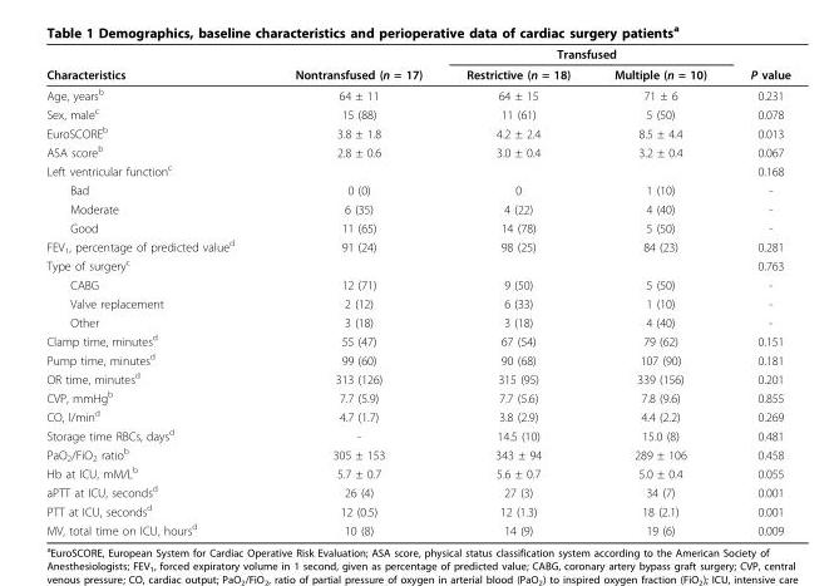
<table><thead><tr><td rowspan="2">Characteristics</td><td rowspan="2">Nontransfused (n = 17)</td><td colspan="2">Transfused</td><td rowspan="2">P value</td></tr><tr><td>Restrictive (n = 18)</td><td>Multiple (n = 10)</td></tr></thead><tbody><tr><td>Age, years<sup>b</sup></td><td>64 ± 11</td><td>64 ± 15</td><td>71 ± 6</td><td>0.231</td></tr><tr><td>Sex, male<sup>c</sup></td><td>15 (88)</td><td>11 (61)</td><td>5 (50)</td><td>0.078</td></tr><tr><td>EuroSCORE<sup>b</sup></td><td>3.8 ± 1.8</td><td>4.2 ± 2.4</td><td>8.5 ± 4.4</td><td>0.013</td></tr><tr><td>ASA score<sup>b</sup></td><td>2.8 ± 0.6</td><td>3.0 ± 0.4</td><td>3.2 ± 0.4</td><td>0.067</td></tr><tr><td>Left ventricular function<sup>c</sup></td><td></td><td></td><td></td><td>0.168</td></tr><tr><td>Bad</td><td>0 (0)</td><td>0</td><td>1 (10)</td><td>-</td></tr><tr><td>Moderate</td><td>6 (35)</td><td>4 (22)</td><td>4 (40)</td><td>-</td></tr><tr><td>Good</td><td>11 (65)</td><td>14 (78)</td><td>5 (50)</td><td>-</td></tr><tr><td>FEV<sub>1</sub>, percentage of predicted value<sup>d</sup></td><td>91 (24)</td><td>98 (25)</td><td>84 (23)</td><td>0.281</td></tr><tr><td>Type of surgery<sup>c</sup></td><td></td><td></td><td></td><td>0.763</td></tr><tr><td>CABG</td><td>12 (71)</td><td>9 (50)</td><td>5 (50)</td><td>-</td></tr><tr><td>Valve replacement</td><td>2 (12)</td><td>6 (33)</td><td>1 (10)</td><td>-</td></tr><tr><td>Other</td><td>3 (18)</td><td>3 (18)</td><td>4 (40)</td><td>-</td></tr><tr><td>Clamp time, minutes<sup>d</sup></td><td>55 (47)</td><td>67 (54)</td><td>79 (62)</td><td>0.151</td></tr><tr><td>Pump time, minutes<sup>d</sup></td><td>99 (60)</td><td>90 (68)</td><td>107 (90)</td><td>0.181</td></tr><tr><td>OR time, minutes<sup>d</sup></td><td>313 (126)</td><td>315 (95)</td><td>339 (156)</td><td>0.201</td></tr><tr><td>CVP, mmHg<sup>b</sup></td><td>7.7 (5.9)</td><td>7.7 (5.6)</td><td>7.8 (9.6)</td><td>0.855</td></tr><tr><td>CO, l/min<sup>d</sup></td><td>4.7 (1.7)</td><td>3.8 (2.9)</td><td>4.4 (2.2)</td><td>0.269</td></tr><tr><td>Storage time RBCs, days<sup>d</sup></td><td>-</td><td>14.5 (10)</td><td>15.0 (8)</td><td>0.481</td></tr><tr><td>PaO<sub>2</sub>/FiO<sub>2</sub> ratio<sup>b</sup></td><td>305 ± 153</td><td>343 ± 94</td><td>289 ± 106</td><td>0.458</td></tr><tr><td>Hb at ICU, mM/L<sup>b</sup></td><td>5.7 ± 0.7</td><td>5.6 ± 0.7</td><td>5.0 ± 0.4</td><td>0.055</td></tr><tr><td>aPTT at ICU, seconds<sup>d</sup></td><td>26 (4)</td><td>27 (3)</td><td>34 (7)</td><td>0.001</td></tr><tr><td>PTT at ICU, seconds<sup>d</sup></td><td>12 (0.5)</td><td>12 (1.3)</td><td>18 (2.1)</td><td>0.001</td></tr><tr><td>MV, total time on ICU, hours<sup>d</sup></td><td>10 (8)</td><td>14 (9)</td><td>19 (6)</td><td>0.009</td></tr></tbody></table>